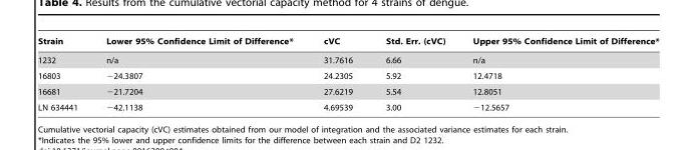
<table><thead><tr><td>Strain</td><td>Lower 95% Confidence Limit of Difference*</td><td>cVC</td><td>Std. Err. (cVC)</td><td>Upper 95% Confidence Limit of Difference*</td></tr></thead><tbody><tr><td>1232</td><td>n/a</td><td>31.7616</td><td>6.66</td><td>n/a</td></tr><tr><td>16803</td><td>−24.3807</td><td>24.2305</td><td>5.92</td><td>12.4718</td></tr><tr><td>16681</td><td>−21.7204</td><td>27.6219</td><td>5.54</td><td>12.8051</td></tr><tr><td>LN 634441</td><td>−42.1138</td><td>4.69539</td><td>3.00</td><td>−12.5657</td></tr></tbody></table>